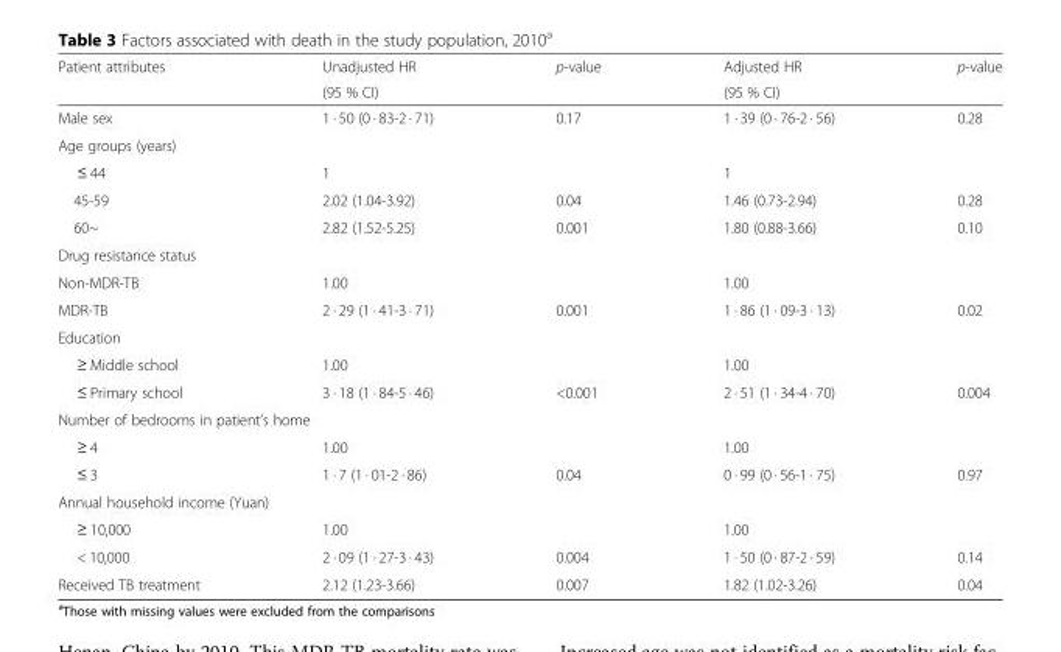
<table><thead><tr><td rowspan="2">Patient attributes</td><td rowspan="2">Unadjusted HR (95 % CI)</td><td rowspan="2">p-value</td><td rowspan="2">Adjusted HR (95 % CI)</td><td rowspan="2">p-value</td></tr><tr></tr></thead><tbody><tr><td>Male sex</td><td>1 · 50 (0 · 83-2 · 71)</td><td>0.17</td><td>1 · 39 (0 · 76-2 · 56)</td><td>0.28</td></tr><tr><td colspan="5">Age groups (years)</td></tr><tr><td>≤ 44</td><td>1</td><td></td><td>1</td><td></td></tr><tr><td>45-59</td><td>2.02 (1.04-3.92)</td><td>0.04</td><td>1.46 (0.73-2.94)</td><td>0.28</td></tr><tr><td>60~</td><td>2.82 (1.52-5.25)</td><td>0.001</td><td>1.80 (0.88-3.66)</td><td>0.10</td></tr><tr><td colspan="5">Drug resistance status</td></tr><tr><td>Non-MDR-TB</td><td>1.00</td><td></td><td>1.00</td><td></td></tr><tr><td>MDR-TB</td><td>2 · 29 (1 · 41-3 · 71)</td><td>0.001</td><td>1 · 86 (1 · 09-3 · 13)</td><td>0.02</td></tr><tr><td colspan="5">Education</td></tr><tr><td>≥ Middle school</td><td>1.00</td><td></td><td>1.00</td><td></td></tr><tr><td>≤ Primary school</td><td>3 · 18 (1 · 84-5 · 46)</td><td>&lt;0.001</td><td>2 · 51 (1 · 34-4 · 70)</td><td>0.004</td></tr><tr><td colspan="5">Number of bedrooms in patient’s home</td></tr><tr><td>≥ 4</td><td>1.00</td><td></td><td>1.00</td><td></td></tr><tr><td>≤ 3</td><td>1 · 7 (1 · 01-2 · 86)</td><td>0.04</td><td>0 · 99 (0 · 56-1 · 75)</td><td>0.97</td></tr><tr><td colspan="5">Annual household income (Yuan)</td></tr><tr><td>≥ 10,000</td><td>1.00</td><td></td><td>1.00</td><td></td></tr><tr><td>&lt; 10,000</td><td>2 · 09 (1 · 27-3 · 43)</td><td>0.004</td><td>1 · 50 (0 · 87-2 · 59)</td><td>0.14</td></tr><tr><td>Received TB treatment</td><td>2.12 (1.23-3.66)</td><td>0.007</td><td>1.82 (1.02-3.26)</td><td>0.04</td></tr></tbody></table>